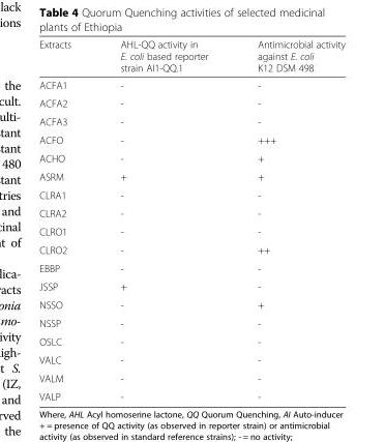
<table><thead><tr><td>Extracts</td><td>AHL-QQ activity in E. coli based reporter strain AI1-QQ.1</td><td>Antimicrobial activity against E. coli K12 DSM 498</td></tr></thead><tbody><tr><td>ACFA1</td><td>-</td><td>-</td></tr><tr><td>ACFA2</td><td>-</td><td>-</td></tr><tr><td>ACFA3</td><td>-</td><td>-</td></tr><tr><td>ACFO</td><td>-</td><td>+++</td></tr><tr><td>ACHO</td><td>-</td><td>+</td></tr><tr><td>ASRM</td><td>+</td><td>+</td></tr><tr><td>CLRA1</td><td>-</td><td>-</td></tr><tr><td>CLRA2</td><td>-</td><td>-</td></tr><tr><td>CLRO1</td><td>-</td><td>-</td></tr><tr><td>CLRO2</td><td>-</td><td>++</td></tr><tr><td>EBBP</td><td>-</td><td>-</td></tr><tr><td>JSSP</td><td>+</td><td>-</td></tr><tr><td>NSSO</td><td>-</td><td>+</td></tr><tr><td>NSSP</td><td>-</td><td>-</td></tr><tr><td>OSLC</td><td>-</td><td>-</td></tr><tr><td>VALC</td><td>-</td><td>-</td></tr><tr><td>VALM</td><td>-</td><td>-</td></tr><tr><td>VALP</td><td>-</td><td>-</td></tr></tbody></table>